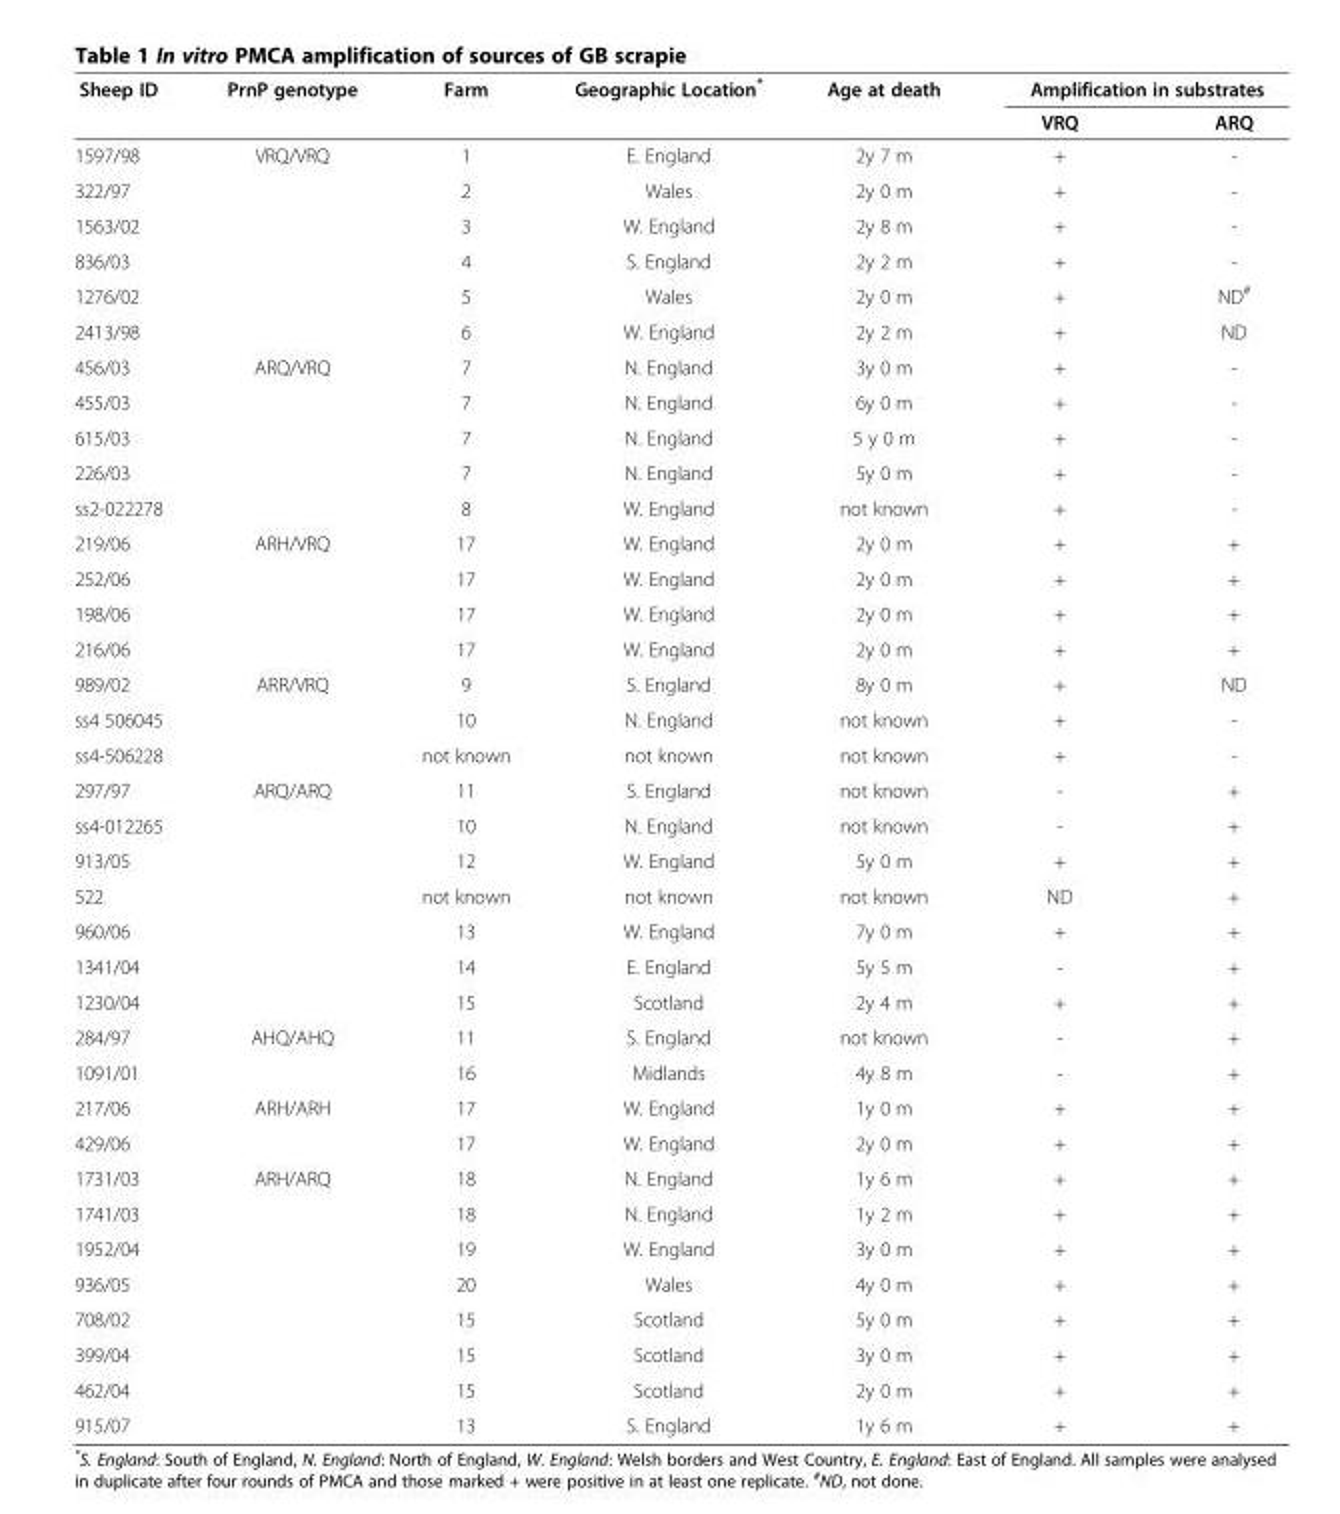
<table><thead><tr><td rowspan="2">Sheep ID</td><td rowspan="2">PrnP genotype</td><td rowspan="2">Farm</td><td rowspan="2">Geographic Location*</td><td rowspan="2">Age at death</td><td colspan="2">Amplification in substrates</td></tr><tr><td>VRQ</td><td>ARQ</td></tr></thead><tbody><tr><td>1597/98</td><td rowspan="6">VRQ/VRQ</td><td>1</td><td>E. England</td><td>2y 7 m</td><td>+</td><td>-</td></tr><tr><td>322/97</td><td>2</td><td>Wales</td><td>2y 0 m</td><td>+</td><td>-</td></tr><tr><td>1563/02</td><td>3</td><td>W. England</td><td>2y 8 m</td><td>+</td><td>-</td></tr><tr><td>836/03</td><td>4</td><td>S. England</td><td>2y 2 m</td><td>+</td><td>-</td></tr><tr><td>1276/02</td><td>5</td><td>Wales</td><td>2y 0 m</td><td>+</td><td>ND<sup>#</sup></td></tr><tr><td>2413/98</td><td>6</td><td>W. England</td><td>2y 2 m</td><td>+</td><td>ND</td></tr><tr><td>456/03</td><td rowspan="5">ARQ/VRQ</td><td>7</td><td>N. England</td><td>3y 0 m</td><td>+</td><td>-</td></tr><tr><td>455/03</td><td>7</td><td>N. England</td><td>6y 0 m</td><td>+</td><td>-</td></tr><tr><td>615/03</td><td>7</td><td>N. England</td><td>5 y 0 m</td><td>+</td><td>-</td></tr><tr><td>226/03</td><td>7</td><td>N. England</td><td>5y 0 m</td><td>+</td><td>-</td></tr><tr><td>ss2-022278</td><td>8</td><td>W. England</td><td>not known</td><td>+</td><td>-</td></tr><tr><td>219/06</td><td rowspan="4">ARH/VRQ</td><td>17</td><td>W. England</td><td>2y 0 m</td><td>+</td><td>+</td></tr><tr><td>252/06</td><td>17</td><td>W. England</td><td>2y 0 m</td><td>+</td><td>+</td></tr><tr><td>198/06</td><td>17</td><td>W. England</td><td>2y 0 m</td><td>+</td><td>+</td></tr><tr><td>216/06</td><td>17</td><td>W. England</td><td>2y 0 m</td><td>+</td><td>+</td></tr><tr><td>989/02</td><td rowspan="3">ARR/VRQ</td><td>9</td><td>S. England</td><td>8y 0 m</td><td>+</td><td>ND</td></tr><tr><td>ss4 506045</td><td>10</td><td>N. England</td><td>not known</td><td>+</td><td>-</td></tr><tr><td>ss4-506228</td><td>not known</td><td>not known</td><td>not known</td><td>+</td><td>-</td></tr><tr><td>297/97</td><td rowspan="7">ARQ/ARQ</td><td>11</td><td>S. England</td><td>not known</td><td>-</td><td>+</td></tr><tr><td>ss4-012265</td><td>10</td><td>N. England</td><td>not known</td><td>-</td><td>+</td></tr><tr><td>913/05</td><td>12</td><td>W. England</td><td>5y 0 m</td><td>+</td><td>+</td></tr><tr><td>522</td><td>not known</td><td>not known</td><td>not known</td><td>ND</td><td>+</td></tr><tr><td>960/06</td><td>13</td><td>W. England</td><td>7y 0 m</td><td>+</td><td>+</td></tr><tr><td>1341/04</td><td>14</td><td>E. England</td><td>5y 5 m</td><td>-</td><td>+</td></tr><tr><td>1230/04</td><td>15</td><td>Scotland</td><td>2y 4 m</td><td>+</td><td>+</td></tr><tr><td>284/97</td><td rowspan="2">AHQ/AHQ</td><td>11</td><td>S. England</td><td>not known</td><td>-</td><td>+</td></tr><tr><td>1091/01</td><td>16</td><td>Midlands</td><td>4y 8 m</td><td>-</td><td>+</td></tr><tr><td>217/06</td><td rowspan="2">ARH/ARH</td><td>17</td><td>W. England</td><td>1y 0 m</td><td>+</td><td>+</td></tr><tr><td>429/06</td><td>17</td><td>W. England</td><td>2y 0 m</td><td>+</td><td>+</td></tr><tr><td>1731/03</td><td rowspan="8">ARH/ARQ</td><td>18</td><td>N. England</td><td>1y 6 m</td><td>+</td><td>+</td></tr><tr><td>1741/03</td><td>18</td><td>N. England</td><td>1y 2 m</td><td>+</td><td>+</td></tr><tr><td>1952/04</td><td>19</td><td>W. England</td><td>3y 0 m</td><td>+</td><td>+</td></tr><tr><td>936/05</td><td>20</td><td>Wales</td><td>4y 0 m</td><td>+</td><td>+</td></tr><tr><td>708/02</td><td>15</td><td>Scotland</td><td>5y 0 m</td><td>+</td><td>+</td></tr><tr><td>399/04</td><td>15</td><td>Scotland</td><td>3y 0 m</td><td>+</td><td>+</td></tr><tr><td>462/04</td><td>15</td><td>Scotland</td><td>2y 0 m</td><td>+</td><td>+</td></tr><tr><td>915/07</td><td>13</td><td>S. England</td><td>1y 6 m</td><td>+</td><td>+</td></tr></tbody></table>